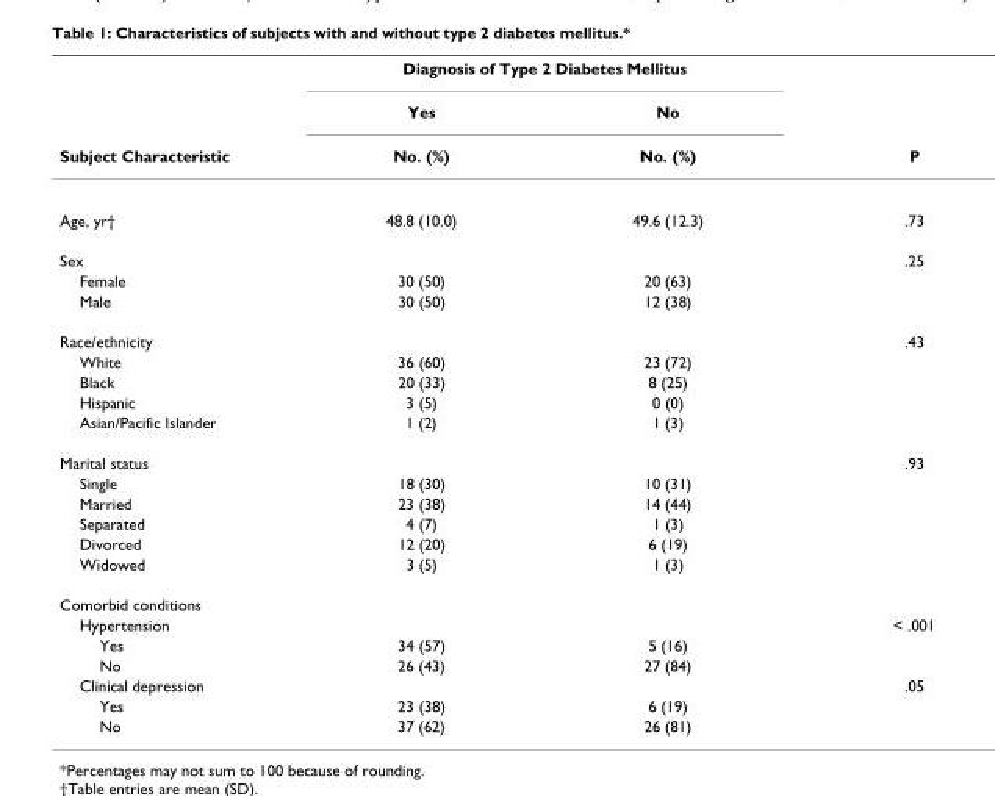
<table><thead><tr><td rowspan="3">Subject Characteristic</td><td colspan="2">Diagnosis of Type 2 Diabetes Mellitus</td><td rowspan="3">P</td></tr><tr><td rowspan="2">Yes No. (%)</td><td rowspan="2">No No. (%)</td></tr><tr></tr></thead><tbody><tr><td>Age, yr†</td><td>48.8 (10.0)</td><td>49.6 (12.3)</td><td>.73</td></tr><tr><td>Sex</td><td></td><td></td><td>.25</td></tr><tr><td>Female</td><td>30 (50)</td><td>20 (63)</td><td></td></tr><tr><td>Male</td><td>30 (50)</td><td>12 (38)</td><td></td></tr><tr><td>Race/ethnicity</td><td></td><td></td><td>.43</td></tr><tr><td>White</td><td>36 (60)</td><td>23 (72)</td><td></td></tr><tr><td>Black</td><td>20 (33)</td><td>8 (25)</td><td></td></tr><tr><td>Hispanic</td><td>3 (5)</td><td>0 (0)</td><td></td></tr><tr><td>Asian/Pacific Islander</td><td>1 (2)</td><td>1 (3)</td><td></td></tr><tr><td>Marital status</td><td></td><td></td><td>.93</td></tr><tr><td>Single</td><td>18 (30)</td><td>10 (31)</td><td></td></tr><tr><td>Married</td><td>23 (38)</td><td>14 (44)</td><td></td></tr><tr><td>Separated</td><td>4 (7)</td><td>1 (3)</td><td></td></tr><tr><td>Divorced</td><td>12 (20)</td><td>6 (19)</td><td></td></tr><tr><td>Widowed</td><td>3 (5)</td><td>1 (3)</td><td></td></tr><tr><td colspan="4">Comorbid conditions</td></tr><tr><td>Hypertension</td><td></td><td></td><td>&lt; .001</td></tr><tr><td>Yes</td><td>34 (57)</td><td>5 (16)</td><td></td></tr><tr><td>No</td><td>26 (43)</td><td>27 (84)</td><td></td></tr><tr><td>Clinical depression</td><td></td><td></td><td>.05</td></tr><tr><td>Yes</td><td>23 (38)</td><td>6 (19)</td><td></td></tr><tr><td>No</td><td>37 (62)</td><td>26 (81)</td><td></td></tr></tbody></table>